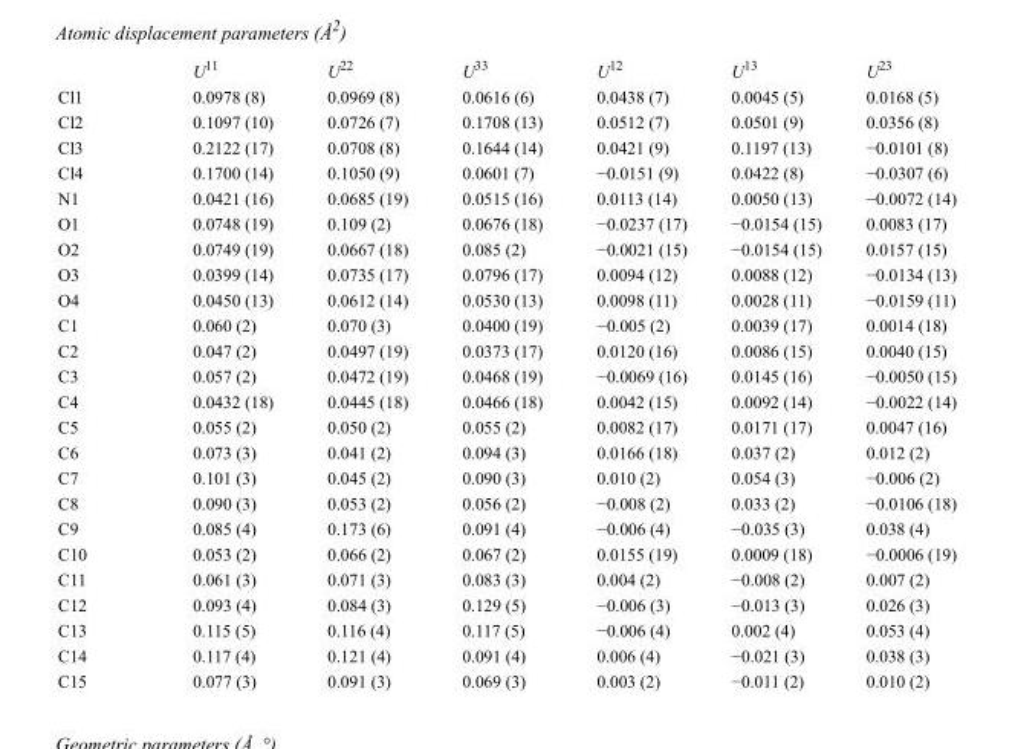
<table><thead><tr><td></td><td>U<sup>11</sup></td><td>U<sup>22</sup></td><td>U<sup>33</sup></td><td>U<sup>12</sup></td><td>U<sup>13</sup></td><td>U<sup>23</sup></td></tr></thead><tbody><tr><td>Cl1</td><td>0.0978 (8)</td><td>0.0969 (8)</td><td>0.0616 (6)</td><td>0.0438 (7)</td><td>0.0045 (5)</td><td>0.0168 (5)</td></tr><tr><td>Cl2</td><td>0.1097 (10)</td><td>0.0726 (7)</td><td>0.1708 (13)</td><td>0.0512 (7)</td><td>0.0501 (9)</td><td>0.0356 (8)</td></tr><tr><td>Cl3</td><td>0.2122 (17)</td><td>0.0708 (8)</td><td>0.1644 (14)</td><td>0.0421 (9)</td><td>0.1197 (13)</td><td>−0.0101 (8)</td></tr><tr><td>Cl4</td><td>0.1700 (14)</td><td>0.1050 (9)</td><td>0.0601 (7)</td><td>−0.0151 (9)</td><td>0.0422 (8)</td><td>−0.0307 (6)</td></tr><tr><td>N1</td><td>0.0421 (16)</td><td>0.0685 (19)</td><td>0.0515 (16)</td><td>0.0113 (14)</td><td>0.0050 (13)</td><td>−0.0072 (14)</td></tr><tr><td>O1</td><td>0.0748 (19)</td><td>0.109 (2)</td><td>0.0676 (18)</td><td>−0.0237 (17)</td><td>−0.0154 (15)</td><td>0.0083 (17)</td></tr><tr><td>O2</td><td>0.0749 (19)</td><td>0.0667 (18)</td><td>0.085 (2)</td><td>−0.0021 (15)</td><td>−0.0154 (15)</td><td>0.0157 (15)</td></tr><tr><td>O3</td><td>0.0399 (14)</td><td>0.0735 (17)</td><td>0.0796 (17)</td><td>0.0094 (12)</td><td>0.0088 (12)</td><td>−0.0134 (13)</td></tr><tr><td>O4</td><td>0.0450 (13)</td><td>0.0612 (14)</td><td>0.0530 (13)</td><td>0.0098 (11)</td><td>0.0028 (11)</td><td>−0.0159 (11)</td></tr><tr><td>C1</td><td>0.060 (2)</td><td>0.070 (3)</td><td>0.0400 (19)</td><td>−0.005 (2)</td><td>0.0039 (17)</td><td>0.0014 (18)</td></tr><tr><td>C2</td><td>0.047 (2)</td><td>0.0497 (19)</td><td>0.0373 (17)</td><td>0.0120 (16)</td><td>0.0086 (15)</td><td>0.0040 (15)</td></tr><tr><td>C3</td><td>0.057 (2)</td><td>0.0472 (19)</td><td>0.0468 (19)</td><td>−0.0069 (16)</td><td>0.0145 (16)</td><td>−0.0050 (15)</td></tr><tr><td>C4</td><td>0.0432 (18)</td><td>0.0445 (18)</td><td>0.0466 (18)</td><td>0.0042 (15)</td><td>0.0092 (14)</td><td>−0.0022 (14)</td></tr><tr><td>C5</td><td>0.055 (2)</td><td>0.050 (2)</td><td>0.055 (2)</td><td>0.0082 (17)</td><td>0.0171 (17)</td><td>0.0047 (16)</td></tr><tr><td>C6</td><td>0.073 (3)</td><td>0.041 (2)</td><td>0.094 (3)</td><td>0.0166 (18)</td><td>0.037 (2)</td><td>0.012 (2)</td></tr><tr><td>C7</td><td>0.101 (3)</td><td>0.045 (2)</td><td>0.090 (3)</td><td>0.010 (2)</td><td>0.054 (3)</td><td>−0.006 (2)</td></tr><tr><td>C8</td><td>0.090 (3)</td><td>0.053 (2)</td><td>0.056 (2)</td><td>−0.008 (2)</td><td>0.033 (2)</td><td>−0.0106 (18)</td></tr><tr><td>C9</td><td>0.085 (4)</td><td>0.173 (6)</td><td>0.091 (4)</td><td>−0.006 (4)</td><td>−0.035 (3)</td><td>0.038 (4)</td></tr><tr><td>C10</td><td>0.053 (2)</td><td>0.066 (2)</td><td>0.067 (2)</td><td>0.0155 (19)</td><td>0.0009 (18)</td><td>−0.0006 (19)</td></tr><tr><td>C11</td><td>0.061 (3)</td><td>0.071 (3)</td><td>0.083 (3)</td><td>0.004 (2)</td><td>−0.008 (2)</td><td>0.007 (2)</td></tr><tr><td>C12</td><td>0.093 (4)</td><td>0.084 (3)</td><td>0.129 (5)</td><td>−0.006 (3)</td><td>−0.013 (3)</td><td>0.026 (3)</td></tr><tr><td>C13</td><td>0.115 (5)</td><td>0.116 (4)</td><td>0.117 (5)</td><td>−0.006 (4)</td><td>0.002 (4)</td><td>0.053 (4)</td></tr><tr><td>C14</td><td>0.117 (4)</td><td>0.121 (4)</td><td>0.091 (4)</td><td>0.006 (4)</td><td>−0.021 (3)</td><td>0.038 (3)</td></tr><tr><td>C15</td><td>0.077 (3)</td><td>0.091 (3)</td><td>0.069 (3)</td><td>0.003 (2)</td><td>−0.011 (2)</td><td>0.010 (2)</td></tr></tbody></table>